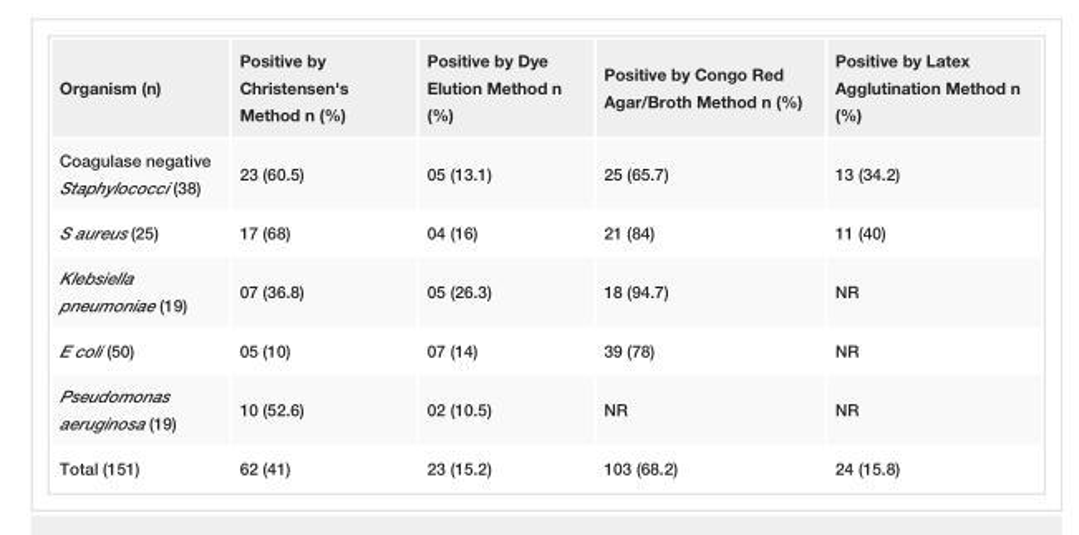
<table><tbody><tr><td>Organism (n)</td><td>Positive by Christensen&#x27;s Method n (%)</td><td>Positive by Dye Elution Method n (%)</td><td>Positive by Congo Red Agar/Broth Method n (%)</td><td>Positive by Latex Agglutination Method n (%)</td></tr><tr><td>Coagulase negative Staphylococci (38)</td><td>23 (60.5)</td><td>05 (13.1)</td><td>25 (65.7)</td><td>13 (34.2)</td></tr><tr><td>S aureus (25)</td><td>17 (68)</td><td>04 (16)</td><td>21 (84)</td><td>11 (40)</td></tr><tr><td>Klebsiella pneumoniae (19)</td><td>07 (36.8)</td><td>05 (26.3)</td><td>18 (94.7)</td><td>NR</td></tr><tr><td>E coli (50)</td><td>05 (10)</td><td>07 (14)</td><td>39 (78)</td><td>NR</td></tr><tr><td>Pseudomonas aeruginosa (19)</td><td>10 (52.6)</td><td>02 (10.5)</td><td>NR</td><td>NR</td></tr><tr><td>Total (151)</td><td>62 (41)</td><td>23 (15.2)</td><td>103 (68.2)</td><td>24 (15.8)</td></tr></tbody></table>